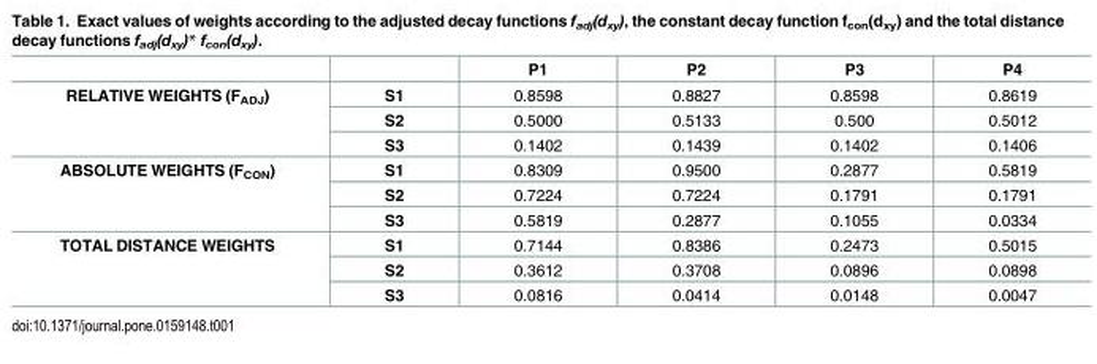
<table><thead><tr><td></td><td></td><td>P1</td><td>P2</td><td>P3</td><td>P4</td></tr></thead><tbody><tr><td rowspan="3">RELATIVE WEIGHTS (F<sub>ADJ</sub>)</td><td>S1</td><td>0.8598</td><td>0.8827</td><td>0.8598</td><td>0.8619</td></tr><tr><td>S2</td><td>0.5000</td><td>0.5133</td><td>0.500</td><td>0.5012</td></tr><tr><td>S3</td><td>0.1402</td><td>0.1439</td><td>0.1402</td><td>0.1406</td></tr><tr><td rowspan="3">ABSOLUTE WEIGHTS (F<sub>CON</sub>)</td><td>S1</td><td>0.8309</td><td>0.9500</td><td>0.2877</td><td>0.5819</td></tr><tr><td>S2</td><td>0.7224</td><td>0.7224</td><td>0.1791</td><td>0.1791</td></tr><tr><td>S3</td><td>0.5819</td><td>0.2877</td><td>0.1055</td><td>0.0334</td></tr><tr><td rowspan="3">TOTAL DISTANCE WEIGHTS</td><td>S1</td><td>0.7144</td><td>0.8386</td><td>0.2473</td><td>0.5015</td></tr><tr><td>S2</td><td>0.3612</td><td>0.3708</td><td>0.0896</td><td>0.0898</td></tr><tr><td>S3</td><td>0.0816</td><td>0.0414</td><td>0.0148</td><td>0.0047</td></tr></tbody></table>